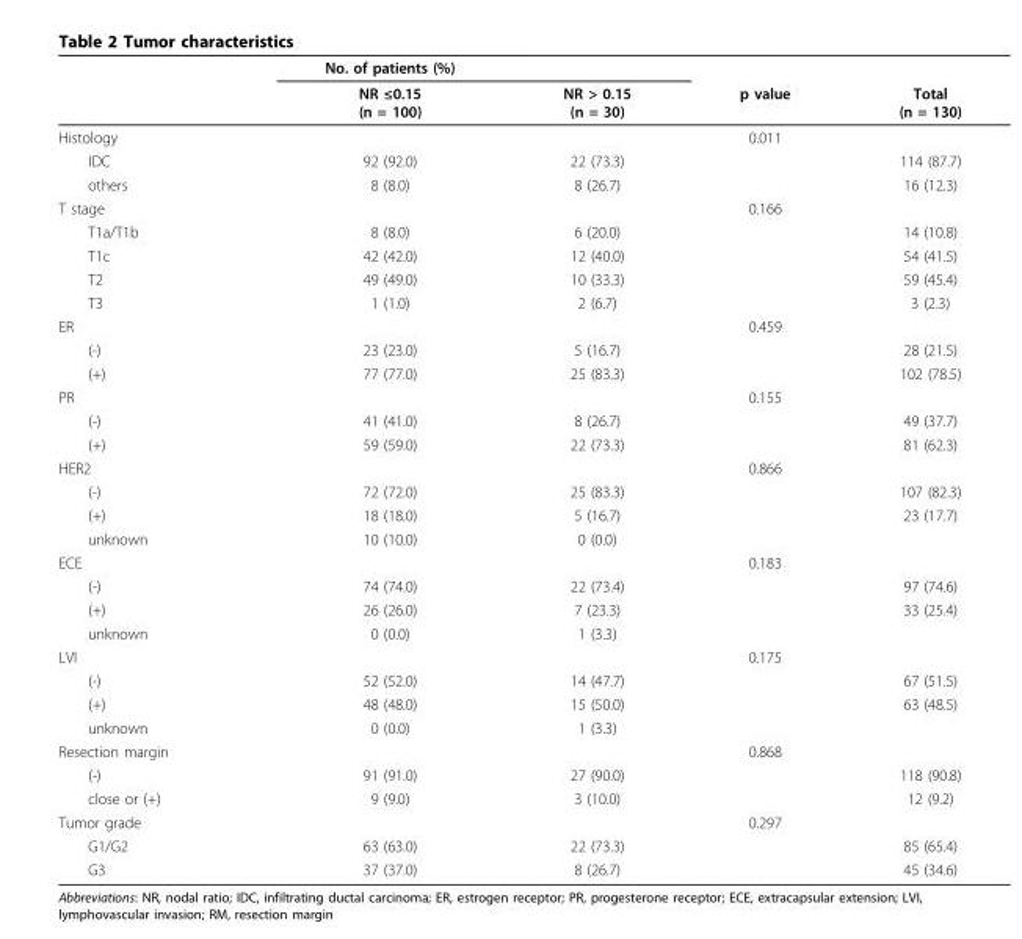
<table><thead><tr><td rowspan="2"></td><td rowspan="2">No. of patients (%) NR ≤0.15 (n = 100)</td><td rowspan="2">NR &gt; 0.15 (n = 30)</td><td rowspan="2">p value</td><td rowspan="2">Total (n = 130)</td></tr><tr></tr></thead><tbody><tr><td>Histology</td><td></td><td></td><td>0.011</td><td></td></tr><tr><td>IDC</td><td>92 (92.0)</td><td>22 (73.3)</td><td></td><td>114 (87.7)</td></tr><tr><td>others</td><td>8 (8.0)</td><td>8 (26.7)</td><td></td><td>16 (12.3)</td></tr><tr><td>T stage</td><td></td><td></td><td>0.166</td><td></td></tr><tr><td>T1a/T1b</td><td>8 (8.0)</td><td>6 (20.0)</td><td></td><td>14 (10.8)</td></tr><tr><td>T1c</td><td>42 (42.0)</td><td>12 (40.0)</td><td></td><td>54 (41.5)</td></tr><tr><td>T2</td><td>49 (49.0)</td><td>10 (33.3)</td><td></td><td>59 (45.4)</td></tr><tr><td>T3</td><td>1 (1.0)</td><td>2 (6.7)</td><td></td><td>3 (2.3)</td></tr><tr><td>ER</td><td></td><td></td><td>0.459</td><td></td></tr><tr><td>(-)</td><td>23 (23.0)</td><td>5 (16.7)</td><td></td><td>28 (21.5)</td></tr><tr><td>(+)</td><td>77 (77.0)</td><td>25 (83.3)</td><td></td><td>102 (78.5)</td></tr><tr><td>PR</td><td></td><td></td><td>0.155</td><td></td></tr><tr><td>(-)</td><td>41 (41.0)</td><td>8 (26.7)</td><td></td><td>49 (37.7)</td></tr><tr><td>(+)</td><td>59 (59.0)</td><td>22 (73.3)</td><td></td><td>81 (62.3)</td></tr><tr><td>HER2</td><td></td><td></td><td>0.866</td><td></td></tr><tr><td>(-)</td><td>72 (72.0)</td><td>25 (83.3)</td><td></td><td>107 (82.3)</td></tr><tr><td>(+)</td><td>18 (18.0)</td><td>5 (16.7)</td><td></td><td>23 (17.7)</td></tr><tr><td>unknown</td><td>10 (10.0)</td><td>0 (0.0)</td><td></td><td></td></tr><tr><td>ECE</td><td></td><td></td><td>0.183</td><td></td></tr><tr><td>(-)</td><td>74 (74.0)</td><td>22 (73.4)</td><td></td><td>97 (74.6)</td></tr><tr><td>(+)</td><td>26 (26.0)</td><td>7 (23.3)</td><td></td><td>33 (25.4)</td></tr><tr><td>unknown</td><td>0 (0.0)</td><td>1 (3.3)</td><td></td><td></td></tr><tr><td>LVI</td><td></td><td></td><td>0.175</td><td></td></tr><tr><td>(-)</td><td>52 (52.0)</td><td>14 (47.7)</td><td></td><td>67 (51.5)</td></tr><tr><td>(+)</td><td>48 (48.0)</td><td>15 (50.0)</td><td></td><td>63 (48.5)</td></tr><tr><td>unknown</td><td>0 (0.0)</td><td>1 (3.3)</td><td></td><td></td></tr><tr><td>Resection margin</td><td></td><td></td><td>0.868</td><td></td></tr><tr><td>(-)</td><td>91 (91.0)</td><td>27 (90.0)</td><td></td><td>118 (90.8)</td></tr><tr><td>close or (+)</td><td>9 (9.0)</td><td>3 (10.0)</td><td></td><td>12 (9.2)</td></tr><tr><td>Tumor grade</td><td></td><td></td><td>0.297</td><td></td></tr><tr><td>G1/G2</td><td>63 (63.0)</td><td>22 (73.3)</td><td></td><td>85 (65.4)</td></tr><tr><td>G3</td><td>37 (37.0)</td><td>8 (26.7)</td><td></td><td>45 (34.6)</td></tr></tbody></table>